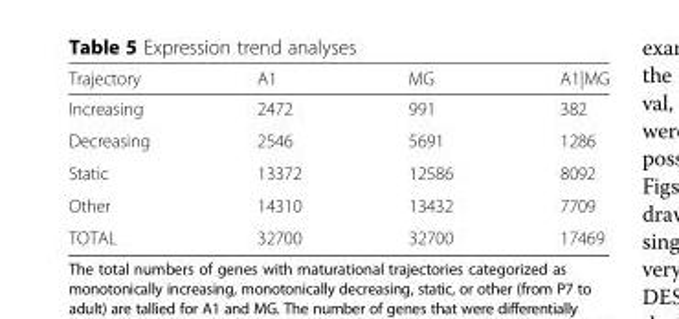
<table><thead><tr><td>Trajectory</td><td>A1</td><td>MG</td><td>A1|MG</td></tr></thead><tbody><tr><td>Increasing</td><td>2472</td><td>991</td><td>382</td></tr><tr><td>Decreasing</td><td>2546</td><td>5691</td><td>1286</td></tr><tr><td>Static</td><td>13372</td><td>12586</td><td>8092</td></tr><tr><td>Other</td><td>14310</td><td>13432</td><td>7709</td></tr><tr><td>TOTAL</td><td>32700</td><td>32700</td><td>17469</td></tr></tbody></table>